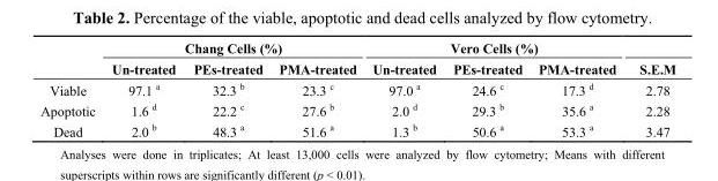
<table><thead><tr><td rowspan="2"></td><td colspan="3">Chang Cells (%)</td><td colspan="3">Vero Cells (%)</td><td rowspan="2">S.E.M</td></tr><tr><td>Un-treated</td><td>PEs-treated</td><td>PMA-treated</td><td>Un-treated</td><td>PEs-treated</td><td>PMA-treated</td></tr></thead><tbody><tr><td>Viable</td><td>97.1 <sup>a</sup></td><td>32.3 <sup>b</sup></td><td>23.3 <sup>c</sup></td><td>97.0 <sup>a</sup></td><td>24.6 <sup>c</sup></td><td>17.3 <sup>d</sup></td><td>2.78</td></tr><tr><td>Apoptotic</td><td>1.6 <sup>d</sup></td><td>22.2 <sup>c</sup></td><td>27.6 <sup>b</sup></td><td>2.0 <sup>d</sup></td><td>29.3 <sup>b</sup></td><td>35.6 <sup>a</sup></td><td>2.28</td></tr><tr><td>Dead</td><td>2.0 <sup>b</sup></td><td>48.3 <sup>a</sup></td><td>51.6 <sup>a</sup></td><td>1.3 <sup>b</sup></td><td>50.6 <sup>a</sup></td><td>53.3 <sup>a</sup></td><td>3.47</td></tr></tbody></table>